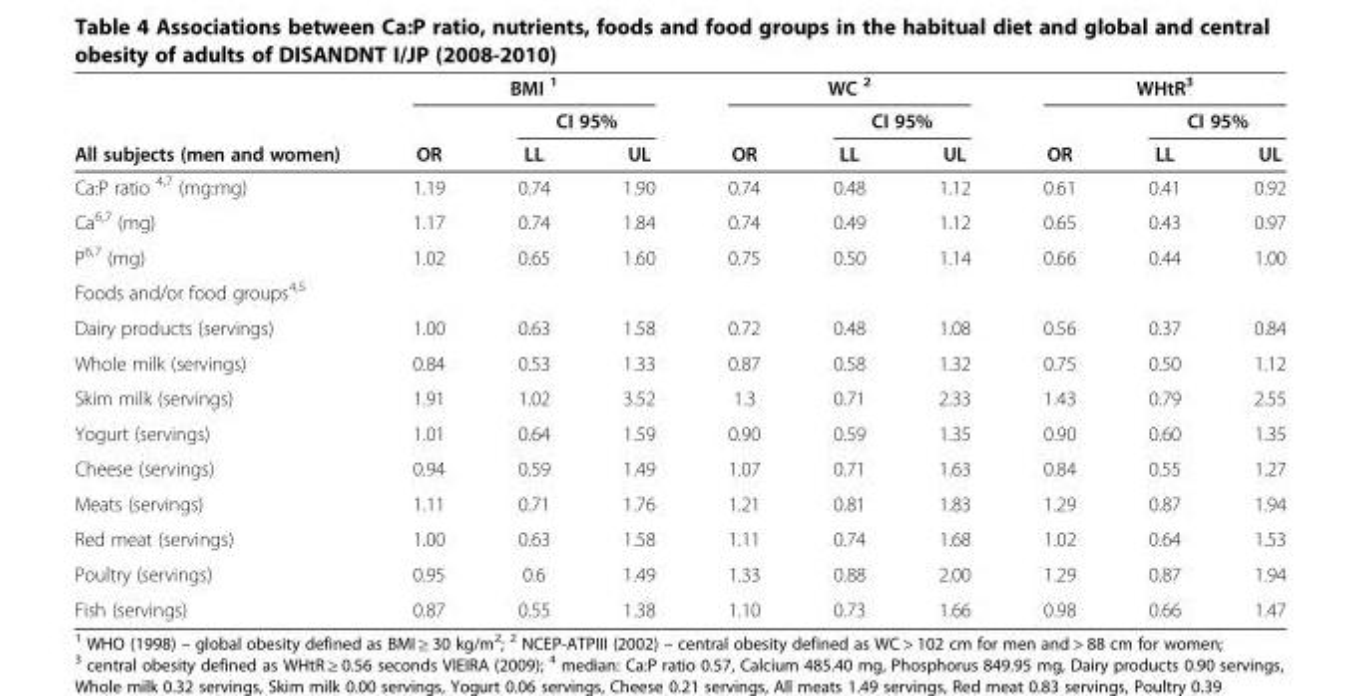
<table><thead><tr><td rowspan="3">All subjects (men and women)</td><td colspan="3">BMI <sup>1</sup></td><td colspan="3">WC <sup>2</sup></td><td colspan="3">WHtR<sup>3</sup></td></tr><tr><td rowspan="2">OR</td><td colspan="2">CI 95%</td><td rowspan="2">OR</td><td colspan="2">CI 95%</td><td rowspan="2">OR</td><td colspan="2">CI 95%</td></tr><tr><td>LL</td><td>UL</td><td>LL</td><td>UL</td><td>LL</td><td>UL</td></tr></thead><tbody><tr><td>Ca:P ratio <sup>4,7</sup> (mg:mg)</td><td>1.19</td><td>0.74</td><td>1.90</td><td>0.74</td><td>0.48</td><td>1.12</td><td>0.61</td><td>0.41</td><td>0.92</td></tr><tr><td>Ca<sup>6,7</sup> (mg)</td><td>1.17</td><td>0.74</td><td>1.84</td><td>0.74</td><td>0.49</td><td>1.12</td><td>0.65</td><td>0.43</td><td>0.97</td></tr><tr><td>P<sup>6,7</sup> (mg)</td><td>1.02</td><td>0.65</td><td>1.60</td><td>0.75</td><td>0.50</td><td>1.14</td><td>0.66</td><td>0.44</td><td>1.00</td></tr><tr><td colspan="10">Foods and/or food groups<sup>4,5</sup></td></tr><tr><td>Dairy products (servings)</td><td>1.00</td><td>0.63</td><td>1.58</td><td>0.72</td><td>0.48</td><td>1.08</td><td>0.56</td><td>0.37</td><td>0.84</td></tr><tr><td>Whole milk (servings)</td><td>0.84</td><td>0.53</td><td>1.33</td><td>0.87</td><td>0.58</td><td>1.32</td><td>0.75</td><td>0.50</td><td>1.12</td></tr><tr><td>Skim milk (servings)</td><td>1.91</td><td>1.02</td><td>3.52</td><td>1.3</td><td>0.71</td><td>2.33</td><td>1.43</td><td>0.79</td><td>2.55</td></tr><tr><td>Yogurt (servings)</td><td>1.01</td><td>0.64</td><td>1.59</td><td>0.90</td><td>0.59</td><td>1.35</td><td>0.90</td><td>0.60</td><td>1.35</td></tr><tr><td>Cheese (servings)</td><td>0.94</td><td>0.59</td><td>1.49</td><td>1.07</td><td>0.71</td><td>1.63</td><td>0.84</td><td>0.55</td><td>1.27</td></tr><tr><td>Meats (servings)</td><td>1.11</td><td>0.71</td><td>1.76</td><td>1.21</td><td>0.81</td><td>1.83</td><td>1.29</td><td>0.87</td><td>1.94</td></tr><tr><td>Red meat (servings)</td><td>1.00</td><td>0.63</td><td>1.58</td><td>1.11</td><td>0.74</td><td>1.68</td><td>1.02</td><td>0.64</td><td>1.53</td></tr><tr><td>Poultry (servings)</td><td>0.95</td><td>0.6</td><td>1.49</td><td>1.33</td><td>0.88</td><td>2.00</td><td>1.29</td><td>0.87</td><td>1.94</td></tr><tr><td>Fish (servings)</td><td>0.87</td><td>0.55</td><td>1.38</td><td>1.10</td><td>0.73</td><td>1.66</td><td>0.98</td><td>0.66</td><td>1.47</td></tr></tbody></table>